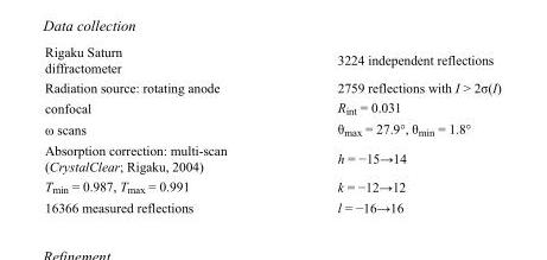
<table><tbody><tr><td>Rigaku Saturn diffractometer</td><td>3224 independent reflections</td></tr><tr><td>Radiation source: rotating anode</td><td>2759 reflections with I &gt; 2σ(I)</td></tr><tr><td>confocal</td><td>R<sub>int</sub> = 0.031</td></tr><tr><td>ω scans</td><td>θ<sub>max</sub> = 27.9°, θ<sub>min</sub> = 1.8°</td></tr><tr><td>Absorption correction: multi-scan (CrystalClear; Rigaku, 2004)</td><td>h = −15→14</td></tr><tr><td>T<sub>min</sub> = 0.987, T<sub>max</sub> = 0.991</td><td>k = −12→12</td></tr><tr><td>16366 measured reflections</td><td>l = −16→16</td></tr></tbody></table>